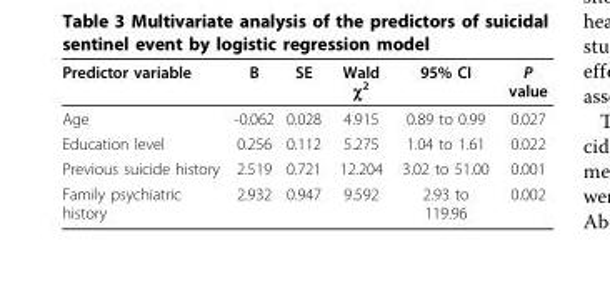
<table><thead><tr><td>Predictor variable</td><td>B</td><td>SE</td><td>Wald χ<sup>2</sup></td><td>95% CI</td><td>P value</td></tr></thead><tbody><tr><td>Age</td><td>-0.062</td><td>0.028</td><td>4.915</td><td>0.89 to 0.99</td><td>0.027</td></tr><tr><td>Education level</td><td>0.256</td><td>0.112</td><td>5.275</td><td>1.04 to 1.61</td><td>0.022</td></tr><tr><td>Previous suicide history</td><td>2.519</td><td>0.721</td><td>12.204</td><td>3.02 to 51.00</td><td>0.001</td></tr><tr><td>Family psychiatric history</td><td>2.932</td><td>0.947</td><td>9.592</td><td>2.93 to 119.96</td><td>0.002</td></tr></tbody></table>